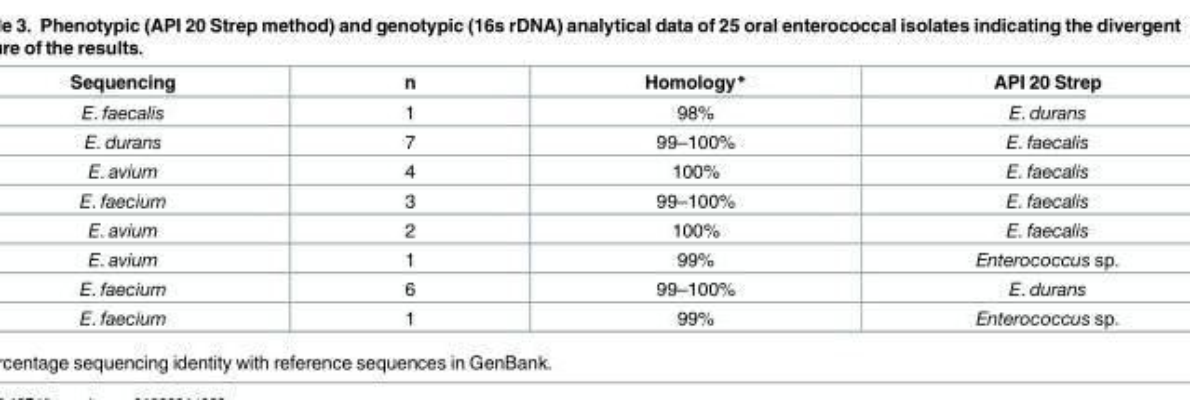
<table><thead><tr><td>Sequencing</td><td>n</td><td>Homology*</td><td>API 20 Strep</td></tr></thead><tbody><tr><td>E. faecalis</td><td>1</td><td>98%</td><td>E. durans</td></tr><tr><td>E. durans</td><td>7</td><td>99–100%</td><td>E. faecalis</td></tr><tr><td>E. avium</td><td>4</td><td>100%</td><td>E. faecalis</td></tr><tr><td>E. faecium</td><td>3</td><td>99–100%</td><td>E. faecalis</td></tr><tr><td>E. avium</td><td>2</td><td>100%</td><td>E. faecalis</td></tr><tr><td>E. avium</td><td>1</td><td>99%</td><td>Enterococcus sp.</td></tr><tr><td>E. faecium</td><td>6</td><td>99–100%</td><td>E. durans</td></tr><tr><td>E. faecium</td><td>1</td><td>99%</td><td>Enterococcus sp.</td></tr></tbody></table>